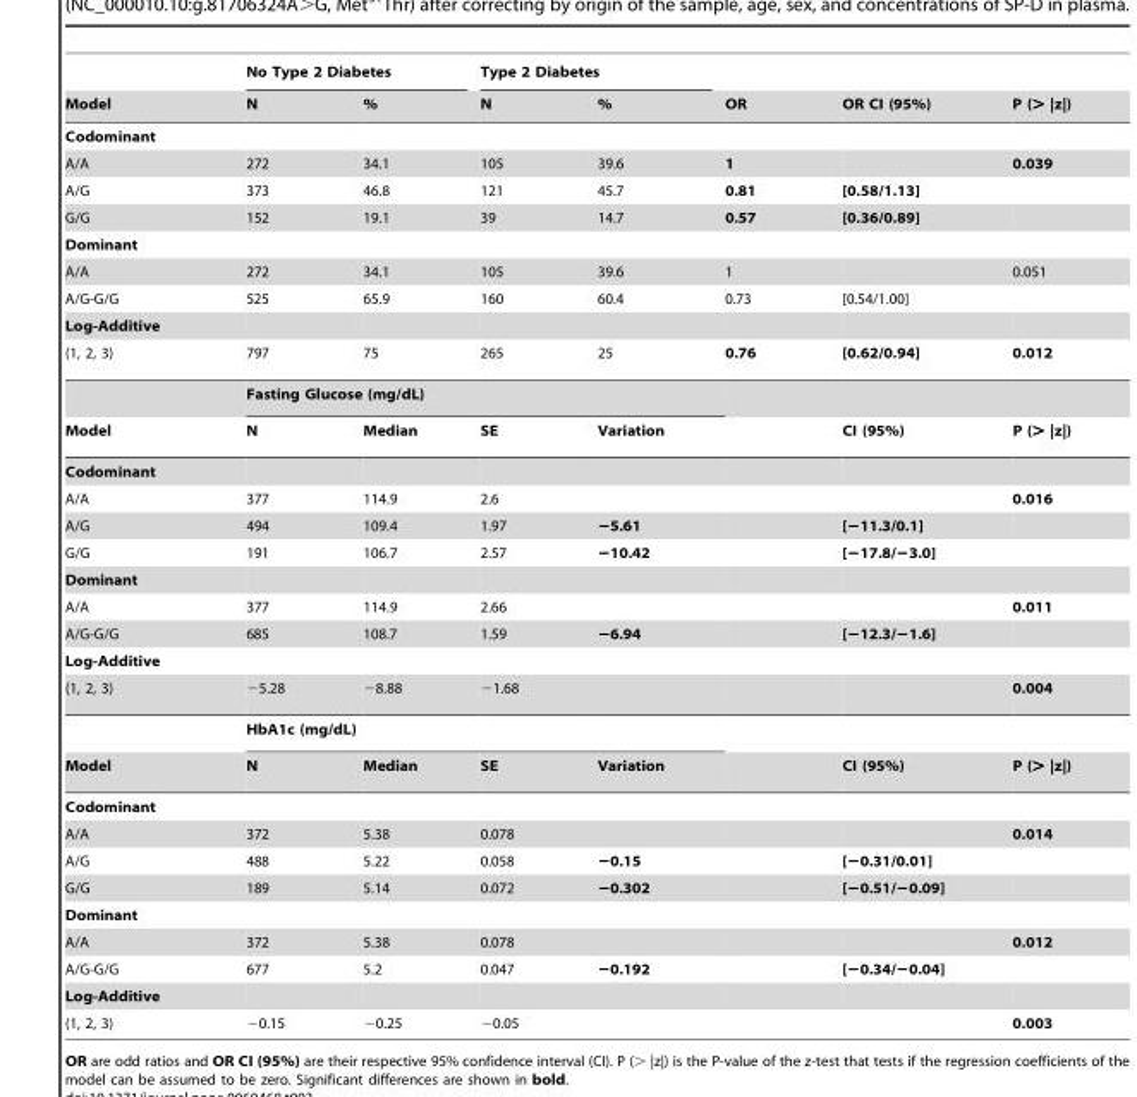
<table><thead><tr><td rowspan="2">Model</td><td colspan="2">No Type 2 Diabetes</td><td colspan="2">Type 2 Diabetes</td><td rowspan="2">OR</td><td rowspan="2">OR CI (95%)</td><td rowspan="2">P (&gt; |z|)</td></tr><tr><td>N</td><td>%</td><td>N</td><td>%</td></tr></thead><tbody><tr><td colspan="8">Codominant</td></tr><tr><td>A/A</td><td>272</td><td>34.1</td><td>105</td><td>39.6</td><td>1</td><td></td><td>0.039</td></tr><tr><td>A/G</td><td>373</td><td>46.8</td><td>121</td><td>45.7</td><td>0.81</td><td>[0.58/1.13]</td><td></td></tr><tr><td>G/G</td><td>152</td><td>19.1</td><td>39</td><td>14.7</td><td>0.57</td><td>[0.36/0.89]</td><td></td></tr><tr><td colspan="8">Dominant</td></tr><tr><td>A/A</td><td>272</td><td>34.1</td><td>105</td><td>39.6</td><td>1</td><td></td><td>0.051</td></tr><tr><td>A/G-G/G</td><td>525</td><td>65.9</td><td>160</td><td>60.4</td><td>0.73</td><td>[0.54/1.00]</td><td></td></tr><tr><td colspan="8">Log-Additive</td></tr><tr><td rowspan="2">(1, 2, 3)</td><td>797</td><td>75</td><td>265</td><td>25</td><td>0.76</td><td>[0.62/0.94]</td><td>0.012</td></tr><tr><td colspan="4">Fasting Glucose (mg/dL)</td><td colspan="3"></td></tr><tr><td>Model</td><td>N</td><td>Median</td><td>SE</td><td>Variation</td><td></td><td>CI (95%)</td><td>P (&gt; |z|)</td></tr><tr><td colspan="8">Codominant</td></tr><tr><td>A/A</td><td>377</td><td>114.9</td><td>2.6</td><td></td><td></td><td></td><td>0.016</td></tr><tr><td>A/G</td><td>494</td><td>109.4</td><td>1.97</td><td>−5.61</td><td></td><td>[−11.3/0.1]</td><td></td></tr><tr><td>G/G</td><td>191</td><td>106.7</td><td>2.57</td><td>−10.42</td><td></td><td>[−17.8/−3.0]</td><td></td></tr><tr><td colspan="8">Dominant</td></tr><tr><td>A/A</td><td>377</td><td>114.9</td><td>2.66</td><td></td><td></td><td></td><td>0.011</td></tr><tr><td>A/G-G/G</td><td>685</td><td>108.7</td><td>1.59</td><td>−6.94</td><td></td><td>[−12.3/−1.6]</td><td></td></tr><tr><td colspan="8">Log-Additive</td></tr><tr><td rowspan="2">(1, 2, 3)</td><td>−5.28</td><td>−8.88</td><td>−1.68</td><td></td><td></td><td></td><td>0.004</td></tr><tr><td colspan="4">HbA1c (mg/dL)</td><td></td><td></td><td></td></tr><tr><td>Model</td><td>N</td><td>Median</td><td>SE</td><td>Variation</td><td></td><td>CI (95%)</td><td>P (&gt; |z|)</td></tr><tr><td colspan="8">Codominant</td></tr><tr><td>A/A</td><td>372</td><td>5.38</td><td>0.078</td><td></td><td></td><td></td><td>0.014</td></tr><tr><td>A/G</td><td>488</td><td>5.22</td><td>0.058</td><td>−0.15</td><td></td><td>[−0.31/0.01]</td><td></td></tr><tr><td>G/G</td><td>189</td><td>5.14</td><td>0.072</td><td>−0.302</td><td></td><td>[−0.51/−0.09]</td><td></td></tr><tr><td colspan="8">Dominant</td></tr><tr><td>A/A</td><td>372</td><td>5.38</td><td>0.078</td><td></td><td></td><td></td><td>0.012</td></tr><tr><td>A/G-G/G</td><td>677</td><td>5.2</td><td>0.047</td><td>−0.192</td><td></td><td>[−0.34/−0.04]</td><td></td></tr><tr><td colspan="8">Log-Additive</td></tr><tr><td>(1, 2, 3)</td><td>−0.15</td><td>−0.25</td><td>−0.05</td><td></td><td></td><td></td><td>0.003</td></tr></tbody></table>